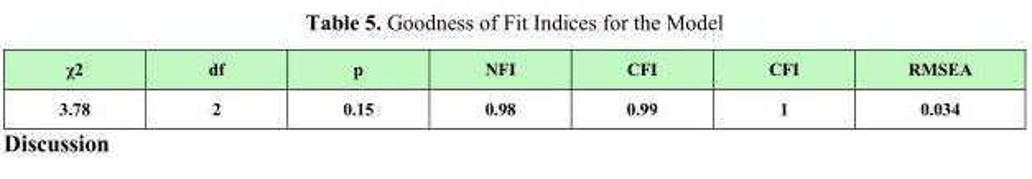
<table><thead><tr><td>χ2</td><td>df</td><td>p</td><td>NFI</td><td>CFI</td><td>CFI</td><td>RMSEA</td></tr></thead><tbody><tr><td>3.78</td><td>2</td><td>0.15</td><td>0.98</td><td>0.99</td><td>1</td><td>0.034</td></tr></tbody></table>